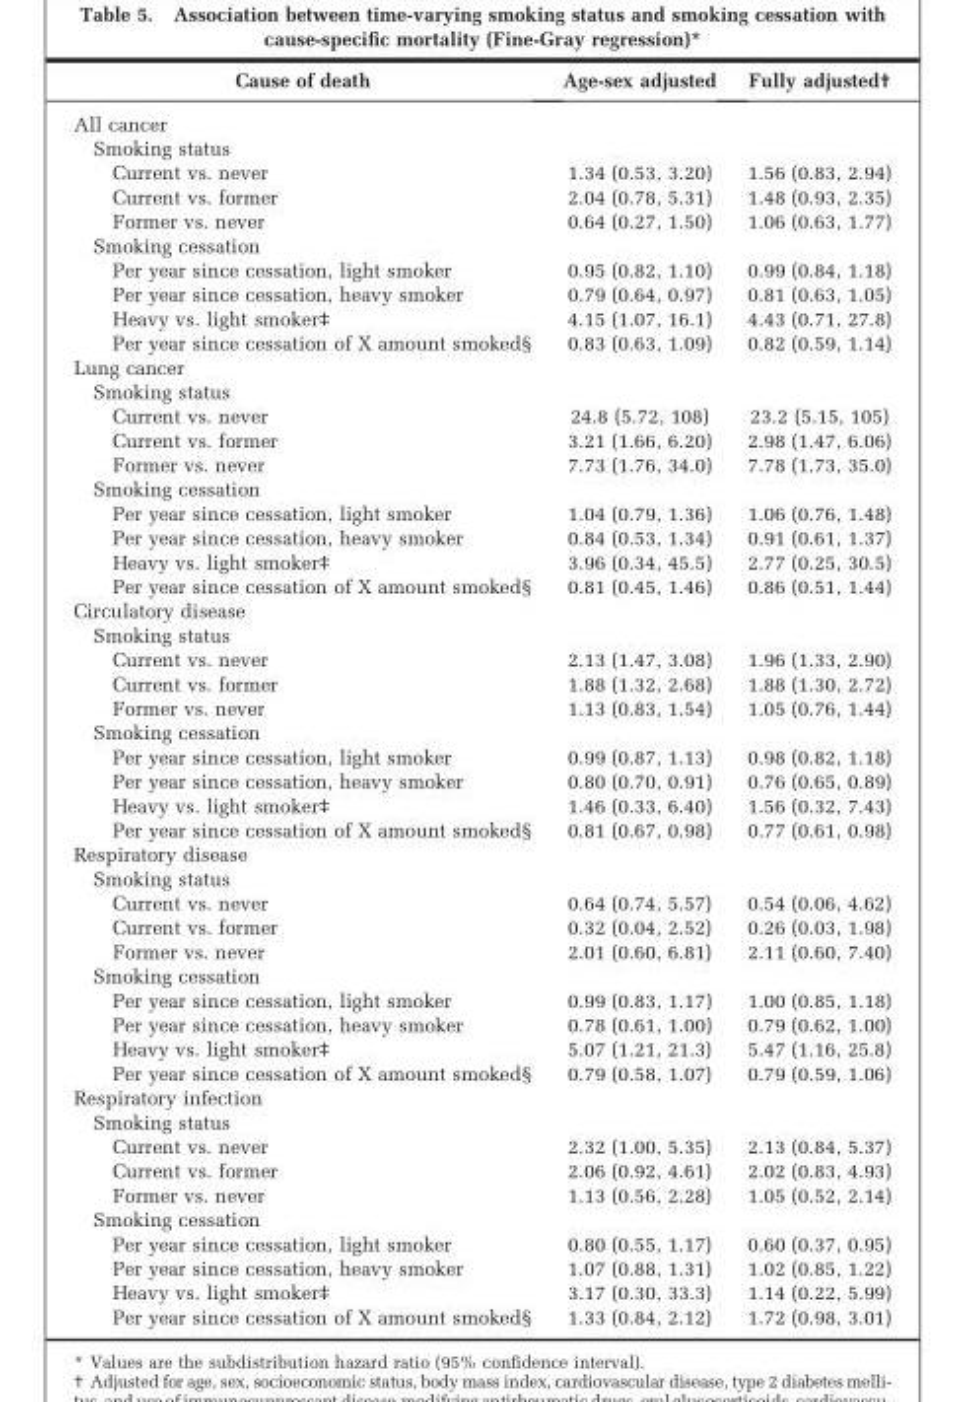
<table><thead><tr><td>Cause of death</td><td>Age-sex adjusted</td><td>Fully adjusted†</td></tr></thead><tbody><tr><td colspan="3">All cancer</td></tr><tr><td colspan="3">Smoking status</td></tr><tr><td>Current vs. never</td><td>1.34 (0.53, 3.20)</td><td>1.56 (0.83, 2.94)</td></tr><tr><td>Current vs. former</td><td>2.04 (0.78, 5.31)</td><td>1.48 (0.93, 2.35)</td></tr><tr><td>Former vs. never</td><td>0.64 (0.27, 1.50)</td><td>1.06 (0.63, 1.77)</td></tr><tr><td colspan="3">Smoking cessation</td></tr><tr><td>Per year since cessation, light smoker</td><td>0.95 (0.82, 1.10)</td><td>0.99 (0.84, 1.18)</td></tr><tr><td>Per year since cessation, heavy smoker</td><td>0.79 (0.64, 0.97)</td><td>0.81 (0.63, 1.05)</td></tr><tr><td>Heavy vs. light smoker‡</td><td>4.15 (1.07, 16.1)</td><td>4.43 (0.71, 27.8)</td></tr><tr><td>Per year since cessation of X amount smoked§</td><td>0.83 (0.63, 1.09)</td><td>0.82 (0.59, 1.14)</td></tr><tr><td colspan="3">Lung cancer</td></tr><tr><td colspan="3">Smoking status</td></tr><tr><td>Current vs. never</td><td>24.8 (5.72, 108)</td><td>23.2 (5.15, 105)</td></tr><tr><td>Current vs. former</td><td>3.21 (1.66, 6.20)</td><td>2.98 (1.47, 6.06)</td></tr><tr><td>Former vs. never</td><td>7.73 (1.76, 34.0)</td><td>7.78 (1.73, 35.0)</td></tr><tr><td colspan="3">Smoking cessation</td></tr><tr><td>Per year since cessation, light smoker</td><td>1.04 (0.79, 1.36)</td><td>1.06 (0.76, 1.48)</td></tr><tr><td>Per year since cessation, heavy smoker</td><td>0.84 (0.53, 1.34)</td><td>0.91 (0.61, 1.37)</td></tr><tr><td>Heavy vs. light smoker‡</td><td>3.96 (0.34, 45.5)</td><td>2.77 (0.25, 30.5)</td></tr><tr><td>Per year since cessation of X amount smoked§</td><td>0.81 (0.45, 1.46)</td><td>0.86 (0.51, 1.44)</td></tr><tr><td colspan="3">Circulatory disease</td></tr><tr><td colspan="3">Smoking status</td></tr><tr><td>Current vs. never</td><td>2.13 (1.47, 3.08)</td><td>1.96 (1.33, 2.90)</td></tr><tr><td>Current vs. former</td><td>1.88 (1.32, 2.68)</td><td>1.88 (1.30, 2.72)</td></tr><tr><td>Former vs. never</td><td>1.13 (0.83, 1.54)</td><td>1.05 (0.76, 1.44)</td></tr><tr><td colspan="3">Smoking cessation</td></tr><tr><td>Per year since cessation, light smoker</td><td>0.99 (0.87, 1.13)</td><td>0.98 (0.82, 1.18)</td></tr><tr><td>Per year since cessation, heavy smoker</td><td>0.80 (0.70, 0.91)</td><td>0.76 (0.65, 0.89)</td></tr><tr><td>Heavy vs. light smoker‡</td><td>1.46 (0.33, 6.40)</td><td>1.56 (0.32, 7.43)</td></tr><tr><td>Per year since cessation of X amount smoked§</td><td>0.81 (0.67, 0.98)</td><td>0.77 (0.61, 0.98)</td></tr><tr><td colspan="3">Respiratory disease</td></tr><tr><td colspan="3">Smoking status</td></tr><tr><td>Current vs. never</td><td>0.64 (0.74, 5.57)</td><td>0.54 (0.06, 4.62)</td></tr><tr><td>Current vs. former</td><td>0.32 (0.04, 2.52)</td><td>0.26 (0.03, 1.98)</td></tr><tr><td>Former vs. never</td><td>2.01 (0.60, 6.81)</td><td>2.11 (0.60, 7.40)</td></tr><tr><td colspan="3">Smoking cessation</td></tr><tr><td>Per year since cessation, light smoker</td><td>0.99 (0.83, 1.17)</td><td>1.00 (0.85, 1.18)</td></tr><tr><td>Per year since cessation, heavy smoker</td><td>0.78 (0.61, 1.00)</td><td>0.79 (0.62, 1.00)</td></tr><tr><td>Heavy vs. light smoker‡</td><td>5.07 (1.21, 21.3)</td><td>5.47 (1.16, 25.8)</td></tr><tr><td>Per year since cessation of X amount smoked§</td><td>0.79 (0.58, 1.07)</td><td>0.79 (0.59, 1.06)</td></tr><tr><td colspan="3">Respiratory infection</td></tr><tr><td colspan="3">Smoking status</td></tr><tr><td>Current vs. never</td><td>2.32 (1.00, 5.35)</td><td>2.13 (0.84, 5.37)</td></tr><tr><td>Current vs. former</td><td>2.06 (0.92, 4.61)</td><td>2.02 (0.83, 4.93)</td></tr><tr><td>Former vs. never</td><td>1.13 (0.56, 2.28)</td><td>1.05 (0.52, 2.14)</td></tr><tr><td colspan="3">Smoking cessation</td></tr><tr><td>Per year since cessation, light smoker</td><td>0.80 (0.55, 1.17)</td><td>0.60 (0.37, 0.95)</td></tr><tr><td>Per year since cessation, heavy smoker</td><td>1.07 (0.88, 1.31)</td><td>1.02 (0.85, 1.22)</td></tr><tr><td>Heavy vs. light smoker‡</td><td>3.17 (0.30, 33.3)</td><td>1.14 (0.22, 5.99)</td></tr><tr><td>Per year since cessation of X amount smoked§</td><td>1.33 (0.84, 2.12)</td><td>1.72 (0.98, 3.01)</td></tr></tbody></table>